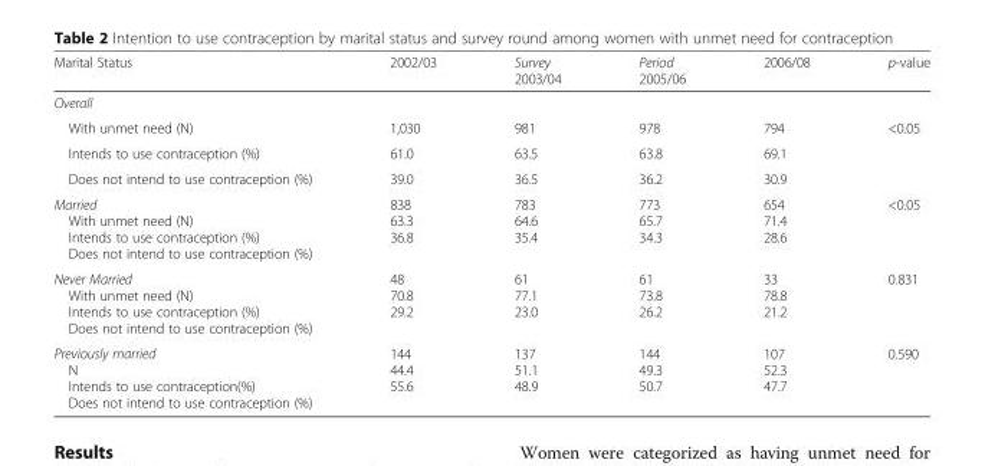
<table><thead><tr><td>Marital Status</td><td>2002/03</td><td>Survey 2003/04</td><td>Period 2005/06</td><td>2006/08</td><td>p-value</td></tr></thead><tbody><tr><td colspan="6">Overall</td></tr><tr><td>With unmet need (N)</td><td>1,030</td><td>981</td><td>978</td><td>794</td><td>&lt;0.05</td></tr><tr><td>Intends to use contraception (%)</td><td>61.0</td><td>63.5</td><td>63.8</td><td>69.1</td><td></td></tr><tr><td>Does not intend to use contraception (%)</td><td>39.0</td><td>36.5</td><td>36.2</td><td>30.9</td><td></td></tr><tr><td>Married With unmet need (N) Intends to use contraception (%) Does not intend to use contraception (%)</td><td>838 63.3 36.8</td><td>783 64.6 35.4</td><td>773 65.7 34.3</td><td>654 71.4 28.6</td><td>&lt;0.05</td></tr><tr><td>Never Married With unmet need (N) Intends to use contraception (%) Does not intend to use contraception (%)</td><td>48 70.8 29.2</td><td>61 77.1 23.0</td><td>61 73.8 26.2</td><td>33 78.8 21.2</td><td>0.831</td></tr><tr><td>Previously married N Intends to use contraception(%) Does not intend to use contraception (%)</td><td>144 44.4 55.6</td><td>137 51.1 48.9</td><td>144 49.3 50.7</td><td>107 52.3 47.7</td><td>0.590</td></tr></tbody></table>